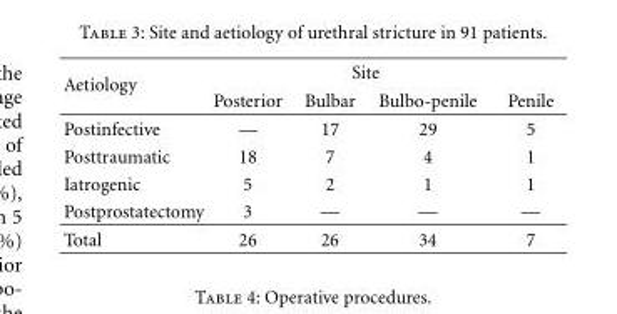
<table><thead><tr><td rowspan="2">Aetiology</td><td colspan="4">Site</td></tr><tr><td>Posterior</td><td>Bulbar</td><td>Bulbo-penile</td><td>Penile</td></tr></thead><tbody><tr><td>Postinfective</td><td>—</td><td>17</td><td>29</td><td>5</td></tr><tr><td>Posttraumatic</td><td>18</td><td>7</td><td>4</td><td>1</td></tr><tr><td>Iatrogenic</td><td>5</td><td>2</td><td>1</td><td>1</td></tr><tr><td>Postprostatectomy</td><td>3</td><td>—</td><td>—</td><td>—</td></tr><tr><td>Total</td><td>26</td><td>26</td><td>34</td><td>7</td></tr></tbody></table>